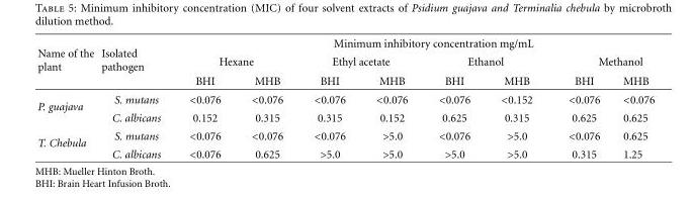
<table><thead><tr><td rowspan="3">Name of the plant</td><td rowspan="3">Isolated pathogen</td><td colspan="8">Minimum inhibitory concentration mg/mL</td></tr><tr><td colspan="2">Hexane</td><td colspan="2">Ethyl acetate</td><td colspan="2">Ethanol</td><td colspan="2">Methanol</td></tr><tr><td>BHI</td><td>MHB</td><td>BHI</td><td>MHB</td><td>BHI</td><td>MHB</td><td>BHI</td><td>MHB</td></tr></thead><tbody><tr><td rowspan="2">P. guajava</td><td>S. mutans</td><td>&lt;0.076</td><td>&lt;0.076</td><td>&lt;0.076</td><td>&lt;0.076</td><td>&lt;0.076</td><td>&lt;0.152</td><td>&lt;0.076</td><td>&lt;0.076</td></tr><tr><td>C. albicans</td><td>0.152</td><td>0.315</td><td>0.315</td><td>0.152</td><td>0.625</td><td>0.315</td><td>0.625</td><td>0.625</td></tr><tr><td rowspan="2">T. Chebula</td><td>S. mutans</td><td>&lt;0.076</td><td>&lt;0.076</td><td>&lt;0.076</td><td>&gt;5.0</td><td>&lt;0.076</td><td>&gt;5.0</td><td>&lt;0.076</td><td>0.625</td></tr><tr><td>C. albicans</td><td>&lt;0.076</td><td>0.625</td><td>&gt;5.0</td><td>&gt;5.0</td><td>&gt;5.0</td><td>&gt;5.0</td><td>0.315</td><td>1.25</td></tr></tbody></table>